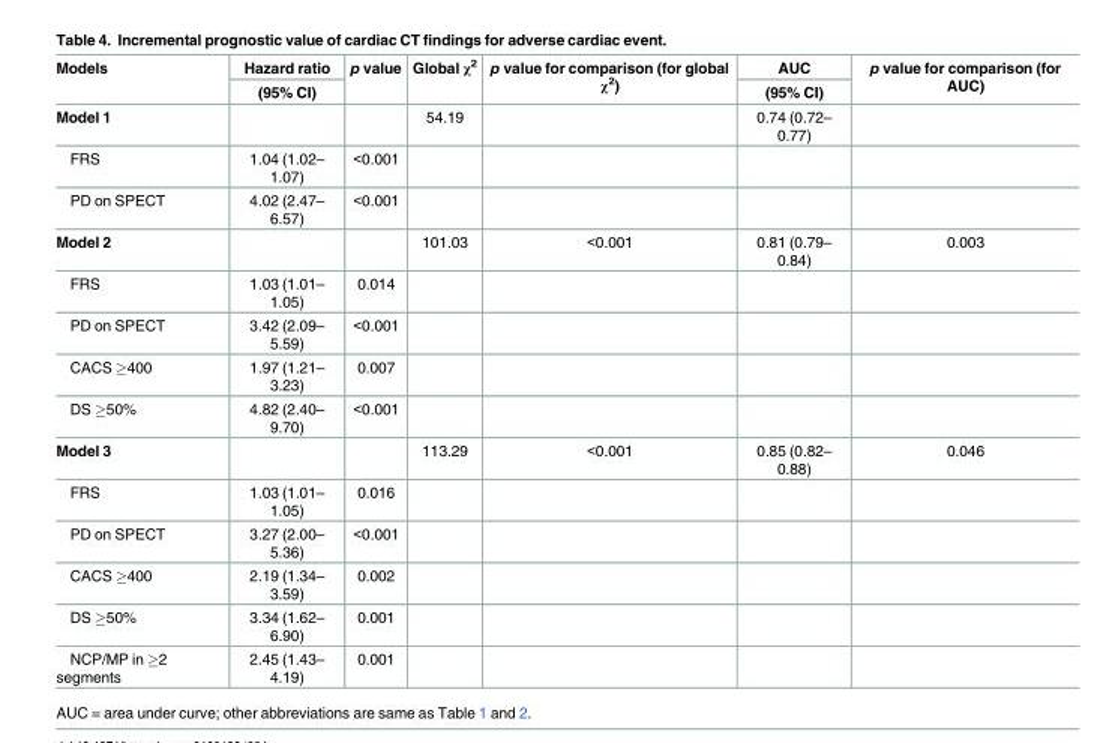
<table><thead><tr><td rowspan="2">Models</td><td rowspan="2">Hazard ratio (95% CI)</td><td rowspan="2">p value</td><td rowspan="2">Global χ<sup>2</sup></td><td rowspan="2">p value for comparison (for global χ<sup>2</sup>)</td><td rowspan="2">AUC (95% CI)</td><td rowspan="2">p value for comparison (for AUC)</td></tr><tr></tr></thead><tbody><tr><td>Model 1</td><td></td><td></td><td>54.19</td><td></td><td>0.74 (0.72– 0.77)</td><td></td></tr><tr><td>FRS</td><td>1.04 (1.02– 1.07)</td><td>&lt;0.001</td><td></td><td></td><td></td><td></td></tr><tr><td>PD on SPECT</td><td>4.02 (2.47– 6.57)</td><td>&lt;0.001</td><td></td><td></td><td></td><td></td></tr><tr><td>Model 2</td><td></td><td></td><td>101.03</td><td>&lt;0.001</td><td>0.81 (0.79– 0.84)</td><td>0.003</td></tr><tr><td>FRS</td><td>1.03 (1.01– 1.05)</td><td>0.014</td><td></td><td></td><td></td><td></td></tr><tr><td>PD on SPECT</td><td>3.42 (2.09– 5.59)</td><td>&lt;0.001</td><td></td><td></td><td></td><td></td></tr><tr><td>CACS ≥400</td><td>1.97 (1.21– 3.23)</td><td>0.007</td><td></td><td></td><td></td><td></td></tr><tr><td>DS ≥50%</td><td>4.82 (2.40– 9.70)</td><td>&lt;0.001</td><td></td><td></td><td></td><td></td></tr><tr><td>Model 3</td><td></td><td></td><td>113.29</td><td>&lt;0.001</td><td>0.85 (0.82– 0.88)</td><td>0.046</td></tr><tr><td>FRS</td><td>1.03 (1.01– 1.05)</td><td>0.016</td><td></td><td></td><td></td><td></td></tr><tr><td>PD on SPECT</td><td>3.27 (2.00– 5.36)</td><td>&lt;0.001</td><td></td><td></td><td></td><td></td></tr><tr><td>CACS ≥400</td><td>2.19 (1.34– 3.59)</td><td>0.002</td><td></td><td></td><td></td><td></td></tr><tr><td>DS ≥50%</td><td>3.34 (1.62– 6.90)</td><td>0.001</td><td></td><td></td><td></td><td></td></tr><tr><td>NCP/MP in ≥2 segments</td><td>2.45 (1.43– 4.19)</td><td>0.001</td><td></td><td></td><td></td><td></td></tr></tbody></table>